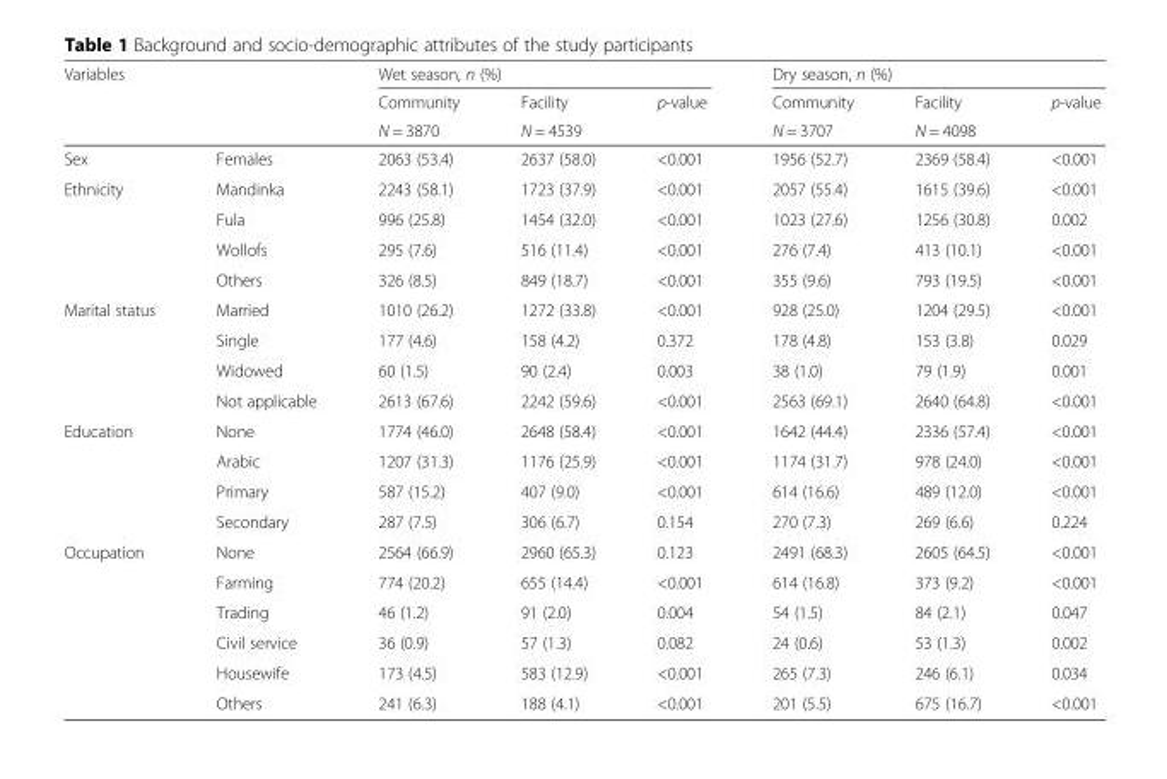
<table><thead><tr><td rowspan="3" colspan="2">Variables</td><td colspan="3">Wet season, n (%)</td><td colspan="3">Dry season, n (%)</td></tr><tr><td rowspan="3">Community N = 3870 2063 (53.4)</td><td rowspan="3">Facility N = 4539 2637 (58.0)</td><td rowspan="3">p-value &lt;0.001</td><td rowspan="3">Community N = 3707 1956 (52.7)</td><td rowspan="3">Facility N = 4098 2369 (58.4)</td><td rowspan="3">p-value &lt;0.001</td></tr><tr></tr><tr><td>Sex</td><td>Females</td></tr></thead><tbody><tr><td rowspan="4">Ethnicity</td><td>Mandinka</td><td>2243 (58.1)</td><td>1723 (37.9)</td><td>&lt;0.001</td><td>2057 (55.4)</td><td>1615 (39.6)</td><td>&lt;0.001</td></tr><tr><td>Fula</td><td>996 (25.8)</td><td>1454 (32.0)</td><td>&lt;0.001</td><td>1023 (27.6)</td><td>1256 (30.8)</td><td>0.002</td></tr><tr><td>Wollofs</td><td>295 (7.6)</td><td>516 (11.4)</td><td>&lt;0.001</td><td>276 (7.4)</td><td>413 (10.1)</td><td>&lt;0.001</td></tr><tr><td>Others</td><td>326 (8.5)</td><td>849 (18.7)</td><td>&lt;0.001</td><td>355 (9.6)</td><td>793 (19.5)</td><td>&lt;0.001</td></tr><tr><td rowspan="4">Marital status</td><td>Married</td><td>1010 (26.2)</td><td>1272 (33.8)</td><td>&lt;0.001</td><td>928 (25.0)</td><td>1204 (29.5)</td><td>&lt;0.001</td></tr><tr><td>Single</td><td>177 (4.6)</td><td>158 (4.2)</td><td>0.372</td><td>178 (4.8)</td><td>153 (3.8)</td><td>0.029</td></tr><tr><td>Widowed</td><td>60 (1.5)</td><td>90 (2.4)</td><td>0.003</td><td>38 (1.0)</td><td>79 (1.9)</td><td>0.001</td></tr><tr><td>Not applicable</td><td>2613 (67.6)</td><td>2242 (59.6)</td><td>&lt;0.001</td><td>2563 (69.1)</td><td>2640 (64.8)</td><td>&lt;0.001</td></tr><tr><td rowspan="4">Education</td><td>None</td><td>1774 (46.0)</td><td>2648 (58.4)</td><td>&lt;0.001</td><td>1642 (44.4)</td><td>2336 (57.4)</td><td>&lt;0.001</td></tr><tr><td>Arabic</td><td>1207 (31.3)</td><td>1176 (25.9)</td><td>&lt;0.001</td><td>1174 (31.7)</td><td>978 (24.0)</td><td>&lt;0.001</td></tr><tr><td>Primary</td><td>587 (15.2)</td><td>407 (9.0)</td><td>&lt;0.001</td><td>614 (16.6)</td><td>489 (12.0)</td><td>&lt;0.001</td></tr><tr><td>Secondary</td><td>287 (7.5)</td><td>306 (6.7)</td><td>0.154</td><td>270 (7.3)</td><td>269 (6.6)</td><td>0.224</td></tr><tr><td rowspan="6">Occupation</td><td>None</td><td>2564 (66.9)</td><td>2960 (65.3)</td><td>0.123</td><td>2491 (68.3)</td><td>2605 (64.5)</td><td>&lt;0.001</td></tr><tr><td>Farming</td><td>774 (20.2)</td><td>655 (14.4)</td><td>&lt;0.001</td><td>614 (16.8)</td><td>373 (9.2)</td><td>&lt;0.001</td></tr><tr><td>Trading</td><td>46 (1.2)</td><td>91 (2.0)</td><td>0.004</td><td>54 (1.5)</td><td>84 (2.1)</td><td>0.047</td></tr><tr><td>Civil service</td><td>36 (0.9)</td><td>57 (1.3)</td><td>0.082</td><td>24 (0.6)</td><td>53 (1.3)</td><td>0.002</td></tr><tr><td>Housewife</td><td>173 (4.5)</td><td>583 (12.9)</td><td>&lt;0.001</td><td>265 (7.3)</td><td>246 (6.1)</td><td>0.034</td></tr><tr><td>Others</td><td>241 (6.3)</td><td>188 (4.1)</td><td>&lt;0.001</td><td>201 (5.5)</td><td>675 (16.7)</td><td>&lt;0.001</td></tr></tbody></table>